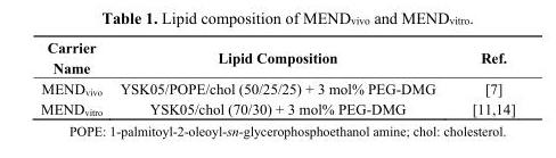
<table><thead><tr><td>Carrier Name</td><td>Lipid Composition</td><td>Ref.</td></tr></thead><tbody><tr><td>MEND<sub>vivo</sub></td><td>YSK05/POPE/chol (50/25/25) + 3 mol% PEG-DMG</td><td>[7]</td></tr><tr><td>MEND<sub>vitro</sub></td><td>YSK05/chol (70/30) + 3 mol% PEG-DMG</td><td>[11,14]</td></tr></tbody></table>